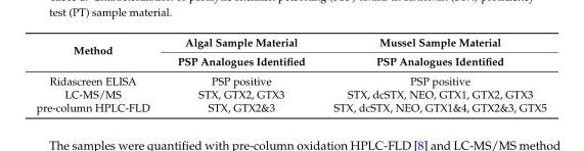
<table><thead><tr><td rowspan="2">Method</td><td rowspan="2">Algal Sample Material PSP Analogues Identified</td><td rowspan="2">Mussel Sample Material PSP Analogues Identified</td></tr><tr></tr></thead><tbody><tr><td>Ridascreen ELISA</td><td>PSP positive</td><td>PSP positive</td></tr><tr><td>LC-MS/MS</td><td>STX, GTX2, GTX3</td><td>STX, dcSTX, NEO, GTX1, GTX2, GTX3</td></tr><tr><td>pre-column HPLC-FLD</td><td>STX, GTX2&amp;3</td><td>STX, dcSTX, NEO, GTX1&amp;4, GTX2&amp;3, GTX5</td></tr></tbody></table>